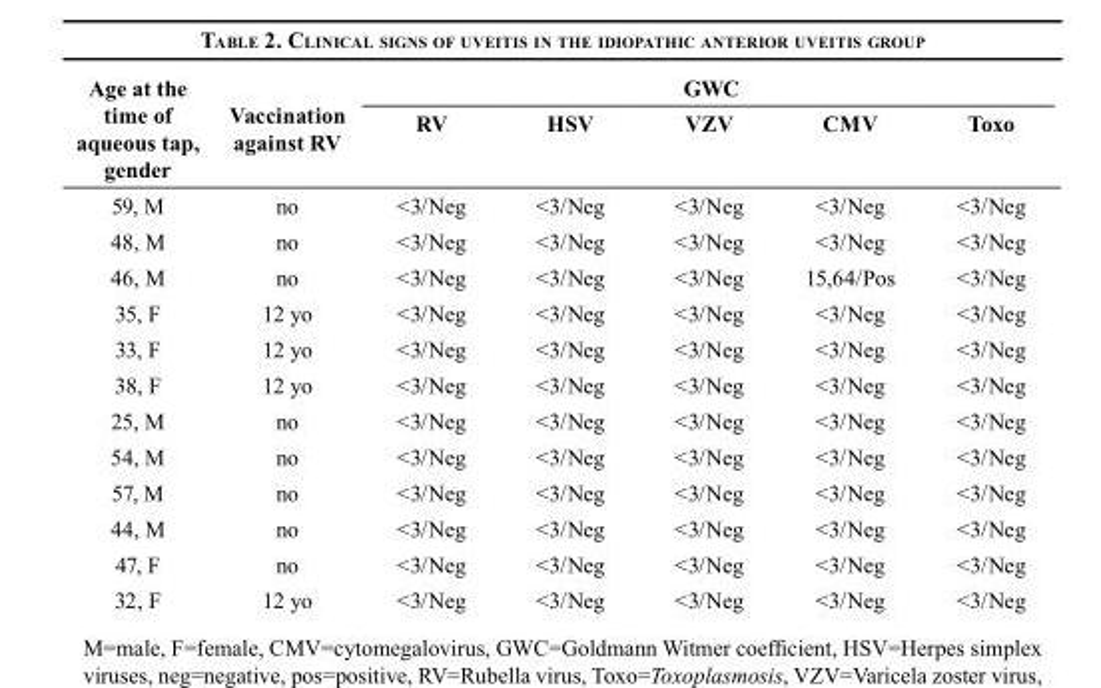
<table><thead><tr><td rowspan="2">Age at the time of aqueous tap, gender</td><td rowspan="2">Vaccination against RV</td><td colspan="5">GWC</td></tr><tr><td>RV</td><td>HSV</td><td>VZV</td><td>CMV</td><td>Toxo</td></tr></thead><tbody><tr><td>59, M</td><td>no</td><td>&lt;3/Neg</td><td>&lt;3/Neg</td><td>&lt;3/Neg</td><td>&lt;3/Neg</td><td>&lt;3/Neg</td></tr><tr><td>48, M</td><td>no</td><td>&lt;3/Neg</td><td>&lt;3/Neg</td><td>&lt;3/Neg</td><td>&lt;3/Neg</td><td>&lt;3/Neg</td></tr><tr><td>46, M</td><td>no</td><td>&lt;3/Neg</td><td>&lt;3/Neg</td><td>&lt;3/Neg</td><td>15,64/Pos</td><td>&lt;3/Neg</td></tr><tr><td>35, F</td><td>12 yo</td><td>&lt;3/Neg</td><td>&lt;3/Neg</td><td>&lt;3/Neg</td><td>&lt;3/Neg</td><td>&lt;3/Neg</td></tr><tr><td>33, F</td><td>12 yo</td><td>&lt;3/Neg</td><td>&lt;3/Neg</td><td>&lt;3/Neg</td><td>&lt;3/Neg</td><td>&lt;3/Neg</td></tr><tr><td>38, F</td><td>12 yo</td><td>&lt;3/Neg</td><td>&lt;3/Neg</td><td>&lt;3/Neg</td><td>&lt;3/Neg</td><td>&lt;3/Neg</td></tr><tr><td>25, M</td><td>no</td><td>&lt;3/Neg</td><td>&lt;3/Neg</td><td>&lt;3/Neg</td><td>&lt;3/Neg</td><td>&lt;3/Neg</td></tr><tr><td>54, M</td><td>no</td><td>&lt;3/Neg</td><td>&lt;3/Neg</td><td>&lt;3/Neg</td><td>&lt;3/Neg</td><td>&lt;3/Neg</td></tr><tr><td>57, M</td><td>no</td><td>&lt;3/Neg</td><td>&lt;3/Neg</td><td>&lt;3/Neg</td><td>&lt;3/Neg</td><td>&lt;3/Neg</td></tr><tr><td>44, M</td><td>no</td><td>&lt;3/Neg</td><td>&lt;3/Neg</td><td>&lt;3/Neg</td><td>&lt;3/Neg</td><td>&lt;3/Neg</td></tr><tr><td>47, F</td><td>no</td><td>&lt;3/Neg</td><td>&lt;3/Neg</td><td>&lt;3/Neg</td><td>&lt;3/Neg</td><td>&lt;3/Neg</td></tr><tr><td>32, F</td><td>12 yo</td><td>&lt;3/Neg</td><td>&lt;3/Neg</td><td>&lt;3/Neg</td><td>&lt;3/Neg</td><td>&lt;3/Neg</td></tr></tbody></table>